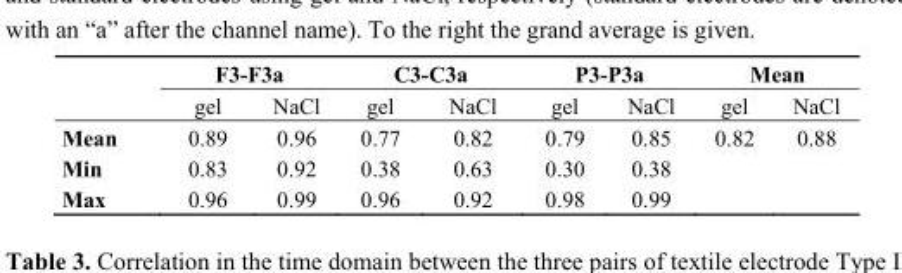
<table><thead><tr><td rowspan="2"></td><td colspan="2">F3-F3a</td><td colspan="2">C3-C3a</td><td colspan="2">P3-P3a</td><td colspan="2">Mean</td></tr><tr><td>gel</td><td>NaCl</td><td>gel</td><td>NaCl</td><td>gel</td><td>NaCl</td><td>gel</td><td>NaCl</td></tr></thead><tbody><tr><td>Mean</td><td>0.89</td><td>0.96</td><td>0.77</td><td>0.82</td><td>0.79</td><td>0.85</td><td>0.82</td><td>0.88</td></tr><tr><td>Min</td><td>0.83</td><td>0.92</td><td>0.38</td><td>0.63</td><td>0.30</td><td>0.38</td><td></td><td></td></tr><tr><td>Max</td><td>0.96</td><td>0.99</td><td>0.96</td><td>0.92</td><td>0.98</td><td>0.99</td><td></td><td></td></tr></tbody></table>